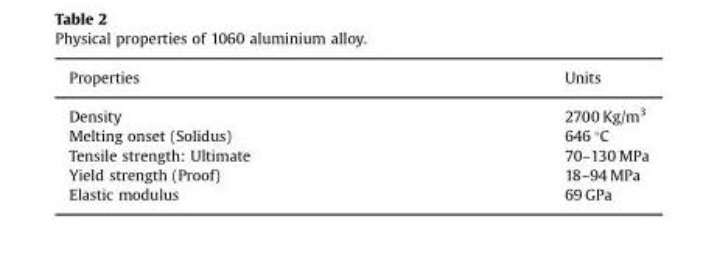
<table><thead><tr><td>Properties</td><td>Units</td></tr></thead><tbody><tr><td>Density</td><td>2700 Kg/m<sup>3</sup></td></tr><tr><td>Melting onset (Solidus)</td><td>646 °C</td></tr><tr><td>Tensile strength: Ultimate</td><td>70–130 MPa</td></tr><tr><td>Yield strength (Proof)</td><td>18–94 MPa</td></tr><tr><td>Elastic modulus</td><td>69 GPa</td></tr></tbody></table>